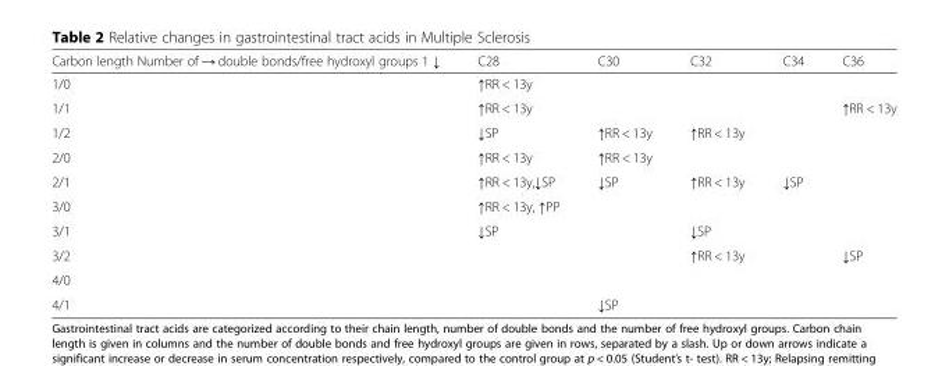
<table><thead><tr><td>Carbon length Number of → double bonds/free hydroxyl groups 1 ↓</td><td>C28</td><td>C30</td><td>C32</td><td>C34</td><td>C36</td></tr></thead><tbody><tr><td>1/0</td><td>↑RR &lt; 13y</td><td></td><td></td><td></td><td></td></tr><tr><td>1/1</td><td>↑RR &lt; 13y</td><td></td><td></td><td></td><td>↑RR &lt; 13y</td></tr><tr><td>1/2</td><td>↓SP</td><td>↑RR &lt; 13y</td><td>↑RR &lt; 13y</td><td></td><td></td></tr><tr><td>2/0</td><td>↑RR &lt; 13y</td><td>↑RR &lt; 13y</td><td></td><td></td><td></td></tr><tr><td>2/1</td><td>↑RR &lt; 13y,↓SP</td><td>↓SP</td><td>↑RR &lt; 13y</td><td>↓SP</td><td></td></tr><tr><td>3/0</td><td>↑RR &lt; 13y, ↑PP</td><td></td><td></td><td></td><td></td></tr><tr><td>3/1</td><td>↓SP</td><td></td><td>↓SP</td><td></td><td></td></tr><tr><td>3/2</td><td></td><td></td><td>↑RR &lt; 13y</td><td></td><td>↓SP</td></tr><tr><td colspan="6">4/0</td></tr><tr><td>4/1</td><td></td><td>↓SP</td><td></td><td></td><td></td></tr></tbody></table>